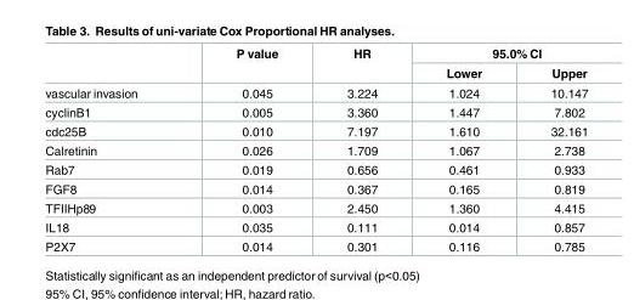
<table><thead><tr><td rowspan="2"></td><td rowspan="2">P value</td><td rowspan="2">HR</td><td colspan="2">95.0% CI</td></tr><tr><td>Lower</td><td>Upper</td></tr></thead><tbody><tr><td>vascular invasion</td><td>0.045</td><td>3.224</td><td>1.024</td><td>10.147</td></tr><tr><td>cyclinB1</td><td>0.005</td><td>3.360</td><td>1.447</td><td>7.802</td></tr><tr><td>cdc25B</td><td>0.010</td><td>7.197</td><td>1.610</td><td>32.161</td></tr><tr><td>Calretinin</td><td>0.026</td><td>1.709</td><td>1.067</td><td>2.738</td></tr><tr><td>Rab7</td><td>0.019</td><td>0.656</td><td>0.461</td><td>0.933</td></tr><tr><td>FGF8</td><td>0.014</td><td>0.367</td><td>0.165</td><td>0.819</td></tr><tr><td>TFIIHp89</td><td>0.003</td><td>2.450</td><td>1.360</td><td>4.415</td></tr><tr><td>IL18</td><td>0.035</td><td>0.111</td><td>0.014</td><td>0.857</td></tr><tr><td>P2X7</td><td>0.014</td><td>0.301</td><td>0.116</td><td>0.785</td></tr></tbody></table>